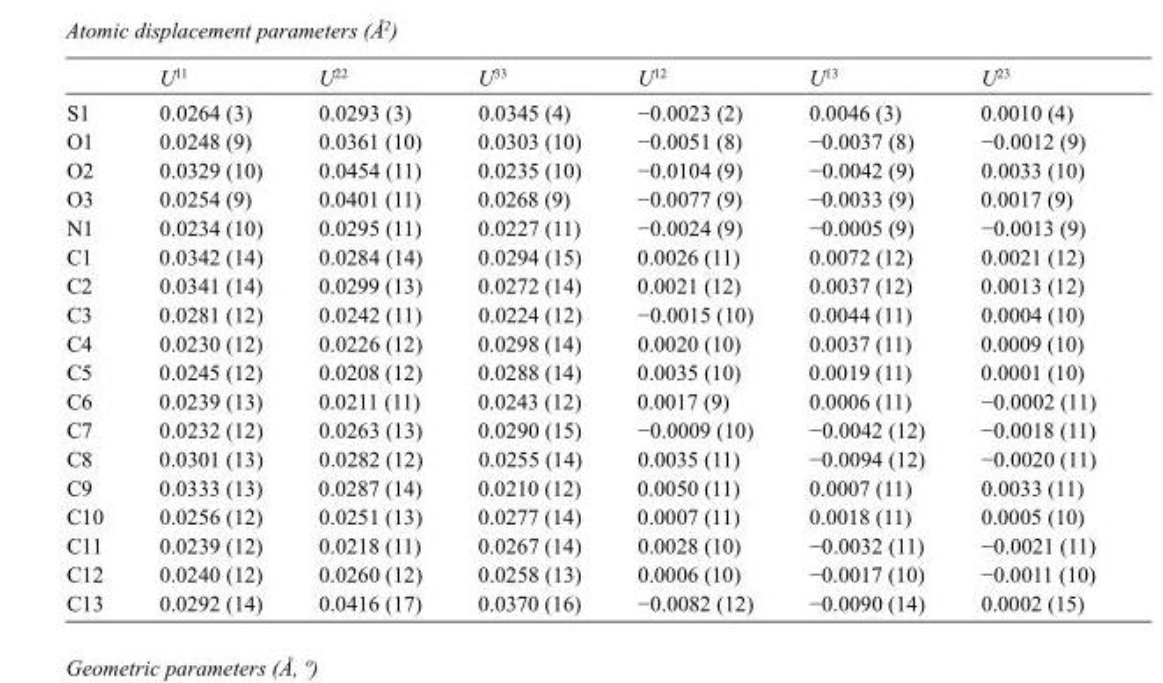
<table><thead><tr><td></td><td>U<sup>11</sup></td><td>U<sup>22</sup></td><td>U<sup>33</sup></td><td>U<sup>12</sup></td><td>U<sup>13</sup></td><td>U<sup>23</sup></td></tr></thead><tbody><tr><td>S1</td><td>0.0264 (3)</td><td>0.0293 (3)</td><td>0.0345 (4)</td><td>−0.0023 (2)</td><td>0.0046 (3)</td><td>0.0010 (4)</td></tr><tr><td>O1</td><td>0.0248 (9)</td><td>0.0361 (10)</td><td>0.0303 (10)</td><td>−0.0051 (8)</td><td>−0.0037 (8)</td><td>−0.0012 (9)</td></tr><tr><td>O2</td><td>0.0329 (10)</td><td>0.0454 (11)</td><td>0.0235 (10)</td><td>−0.0104 (9)</td><td>−0.0042 (9)</td><td>0.0033 (10)</td></tr><tr><td>O3</td><td>0.0254 (9)</td><td>0.0401 (11)</td><td>0.0268 (9)</td><td>−0.0077 (9)</td><td>−0.0033 (9)</td><td>0.0017 (9)</td></tr><tr><td>N1</td><td>0.0234 (10)</td><td>0.0295 (11)</td><td>0.0227 (11)</td><td>−0.0024 (9)</td><td>−0.0005 (9)</td><td>−0.0013 (9)</td></tr><tr><td>C1</td><td>0.0342 (14)</td><td>0.0284 (14)</td><td>0.0294 (15)</td><td>0.0026 (11)</td><td>0.0072 (12)</td><td>0.0021 (12)</td></tr><tr><td>C2</td><td>0.0341 (14)</td><td>0.0299 (13)</td><td>0.0272 (14)</td><td>0.0021 (12)</td><td>0.0037 (12)</td><td>0.0013 (12)</td></tr><tr><td>C3</td><td>0.0281 (12)</td><td>0.0242 (11)</td><td>0.0224 (12)</td><td>−0.0015 (10)</td><td>0.0044 (11)</td><td>0.0004 (10)</td></tr><tr><td>C4</td><td>0.0230 (12)</td><td>0.0226 (12)</td><td>0.0298 (14)</td><td>0.0020 (10)</td><td>0.0037 (11)</td><td>0.0009 (10)</td></tr><tr><td>C5</td><td>0.0245 (12)</td><td>0.0208 (12)</td><td>0.0288 (14)</td><td>0.0035 (10)</td><td>0.0019 (11)</td><td>0.0001 (10)</td></tr><tr><td>C6</td><td>0.0239 (13)</td><td>0.0211 (11)</td><td>0.0243 (12)</td><td>0.0017 (9)</td><td>0.0006 (11)</td><td>−0.0002 (11)</td></tr><tr><td>C7</td><td>0.0232 (12)</td><td>0.0263 (13)</td><td>0.0290 (15)</td><td>−0.0009 (10)</td><td>−0.0042 (12)</td><td>−0.0018 (11)</td></tr><tr><td>C8</td><td>0.0301 (13)</td><td>0.0282 (12)</td><td>0.0255 (14)</td><td>0.0035 (11)</td><td>−0.0094 (12)</td><td>−0.0020 (11)</td></tr><tr><td>C9</td><td>0.0333 (13)</td><td>0.0287 (14)</td><td>0.0210 (12)</td><td>0.0050 (11)</td><td>0.0007 (11)</td><td>0.0033 (11)</td></tr><tr><td>C10</td><td>0.0256 (12)</td><td>0.0251 (13)</td><td>0.0277 (14)</td><td>0.0007 (11)</td><td>0.0018 (11)</td><td>0.0005 (10)</td></tr><tr><td>C11</td><td>0.0239 (12)</td><td>0.0218 (11)</td><td>0.0267 (14)</td><td>0.0028 (10)</td><td>−0.0032 (11)</td><td>−0.0021 (11)</td></tr><tr><td>C12</td><td>0.0240 (12)</td><td>0.0260 (12)</td><td>0.0258 (13)</td><td>0.0006 (10)</td><td>−0.0017 (10)</td><td>−0.0011 (10)</td></tr><tr><td>C13</td><td>0.0292 (14)</td><td>0.0416 (17)</td><td>0.0370 (16)</td><td>−0.0082 (12)</td><td>−0.0090 (14)</td><td>0.0002 (15)</td></tr></tbody></table>